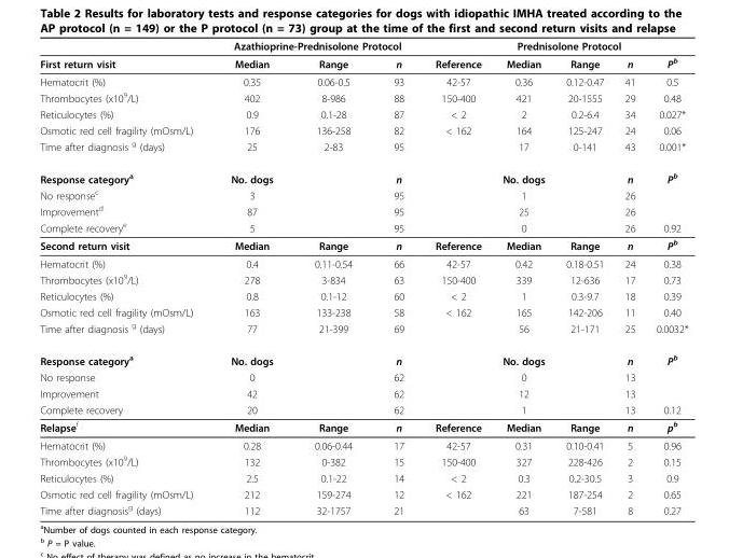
<table><thead><tr><td rowspan="2">First return visit</td><td colspan="3">Azathioprine-Prednisolone Protocol</td><td rowspan="2">Reference</td><td colspan="3">Prednisolone Protocol</td><td rowspan="2">Pb</td></tr><tr><td>Median</td><td>Range</td><td>n</td><td>Median</td><td>Range</td><td>n</td></tr></thead><tbody><tr><td>Hematocrit (%)</td><td>0.35</td><td>0.06-0.5</td><td>93</td><td>42-57</td><td>0.36</td><td>0.12-0.47</td><td>41</td><td>0.5</td></tr><tr><td>Thrombocytes (x10<sup>9</sup>/L)</td><td>402</td><td>8-986</td><td>88</td><td>150-400</td><td>421</td><td>20-1555</td><td>29</td><td>0.48</td></tr><tr><td>Reticulocytes (%)</td><td>0.9</td><td>0.1-28</td><td>87</td><td>&lt; 2</td><td>2</td><td>0.2-6.4</td><td>34</td><td>0.027*</td></tr><tr><td>Osmotic red cell fragility (mOsm/L)</td><td>176</td><td>136-258</td><td>82</td><td>&lt; 162</td><td>164</td><td>125-247</td><td>24</td><td>0.06</td></tr><tr><td>Time after diagnosis <sup>g</sup> (days)</td><td>25</td><td>2-83</td><td>95</td><td></td><td>17</td><td>0-141</td><td>43</td><td>0.001*</td></tr><tr><td>Response category<sup>a</sup></td><td>No. dogs</td><td></td><td>n</td><td></td><td>No. dogs</td><td></td><td>n</td><td>P<sup>b</sup></td></tr><tr><td>No response<sup>c</sup></td><td>3</td><td></td><td>95</td><td></td><td>1</td><td></td><td>26</td><td></td></tr><tr><td>Improvement<sup>d</sup></td><td>87</td><td></td><td>95</td><td></td><td>25</td><td></td><td>26</td><td></td></tr><tr><td>Complete recovery<sup>e</sup></td><td>5</td><td></td><td>95</td><td></td><td>0</td><td></td><td>26</td><td>0.92</td></tr><tr><td>Second return visit</td><td>Median</td><td>Range</td><td>n</td><td>Reference</td><td>Median</td><td>Range</td><td>n</td><td>P<sup>b</sup></td></tr><tr><td>Hematocrit (%)</td><td>0.4</td><td>0.11-0.54</td><td>66</td><td>42-57</td><td>0.42</td><td>0.18-0.51</td><td>24</td><td>0.38</td></tr><tr><td>Thrombocytes (x10<sup>9</sup>/L)</td><td>278</td><td>3-834</td><td>63</td><td>150-400</td><td>339</td><td>12-636</td><td>17</td><td>0.73</td></tr><tr><td>Reticulocytes (%)</td><td>0.8</td><td>0.1-12</td><td>60</td><td>&lt; 2</td><td>1</td><td>0.3-9.7</td><td>18</td><td>0.39</td></tr><tr><td>Osmotic red cell fragility (mOsm/L)</td><td>163</td><td>133-238</td><td>58</td><td>&lt; 162</td><td>165</td><td>142-206</td><td>11</td><td>0.40</td></tr><tr><td>Time after diagnosis <sup>g</sup> (days)</td><td>77</td><td>21-399</td><td>69</td><td></td><td>56</td><td>21-171</td><td>25</td><td>0.0032*</td></tr><tr><td>Response category<sup>a</sup></td><td>No. dogs</td><td></td><td>n</td><td></td><td>No. dogs</td><td></td><td>n</td><td>P<sup>b</sup></td></tr><tr><td>No response</td><td>0</td><td></td><td>62</td><td></td><td>0</td><td></td><td>13</td><td></td></tr><tr><td>Improvement</td><td>42</td><td></td><td>62</td><td></td><td>12</td><td></td><td>13</td><td></td></tr><tr><td>Complete recovery</td><td>20</td><td></td><td>62</td><td></td><td>1</td><td></td><td>13</td><td>0.12</td></tr><tr><td>Relapse<sup>f</sup></td><td>Median</td><td>Range</td><td>n</td><td>Reference</td><td>Median</td><td>Range</td><td>n</td><td>p<sup>b</sup></td></tr><tr><td>Hematocrit (%)</td><td>0.28</td><td>0.06-0.44</td><td>17</td><td>42-57</td><td>0.31</td><td>0.10-0.41</td><td>5</td><td>0.96</td></tr><tr><td>Thrombocytes (x10<sup>9</sup>/L)</td><td>132</td><td>0-382</td><td>15</td><td>150-400</td><td>327</td><td>228-426</td><td>2</td><td>0.15</td></tr><tr><td>Reticulocytes (%)</td><td>2.5</td><td>0.1-22</td><td>14</td><td>&lt; 2</td><td>0.3</td><td>0.2-30.5</td><td>3</td><td>0.9</td></tr><tr><td>Osmotic red cell fragility (mOsm/L)</td><td>212</td><td>159-274</td><td>12</td><td>&lt; 162</td><td>221</td><td>187-254</td><td>2</td><td>0.65</td></tr><tr><td>Time after diagnosis<sup>g</sup> (days)</td><td>112</td><td>32-1757</td><td>21</td><td></td><td>63</td><td>7-581</td><td>8</td><td>0.27</td></tr></tbody></table>